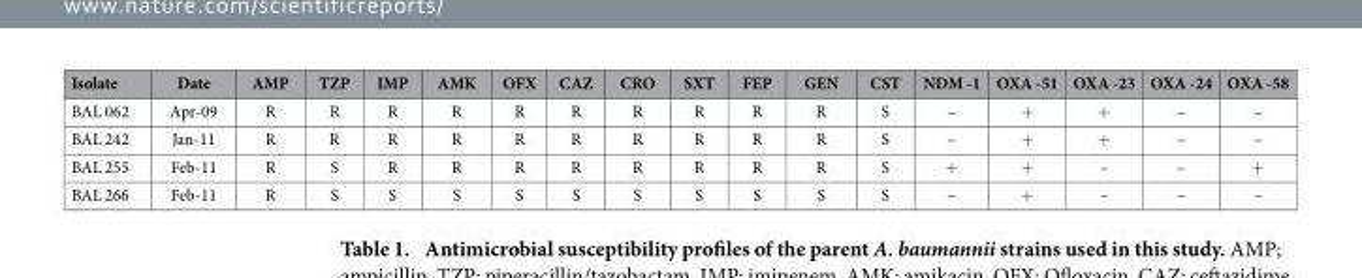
<table><thead><tr><td>Isolate</td><td>Date</td><td>AMP</td><td>TZP</td><td>IMP</td><td>AMK</td><td>OFX</td><td>CAZ</td><td>CRO</td><td>SXT</td><td>FEP</td><td>GEN</td><td>CST</td><td>NDM -1</td><td>OXA -51</td><td>OXA -23</td><td>OXA -24</td><td>OXA -58</td></tr></thead><tbody><tr><td>BAL 062</td><td>Apr-09</td><td>R</td><td>R</td><td>R</td><td>R</td><td>R</td><td>R</td><td>R</td><td>R</td><td>R</td><td>R</td><td>S</td><td>–</td><td>+</td><td>+</td><td>–</td><td>–</td></tr><tr><td>BAL 242</td><td>Jan-11</td><td>R</td><td>R</td><td>R</td><td>R</td><td>R</td><td>R</td><td>R</td><td>R</td><td>R</td><td>R</td><td>S</td><td>–</td><td>+</td><td>+</td><td>–</td><td>–</td></tr><tr><td>BAL 255</td><td>Feb-11</td><td>R</td><td>S</td><td>R</td><td>R</td><td>R</td><td>R</td><td>R</td><td>R</td><td>R</td><td>R</td><td>S</td><td>+</td><td>+</td><td>–</td><td>–</td><td>+</td></tr><tr><td>BAL 266</td><td>Feb-11</td><td>R</td><td>S</td><td>S</td><td>S</td><td>S</td><td>S</td><td>S</td><td>S</td><td>S</td><td>S</td><td>S</td><td>–</td><td>+</td><td>–</td><td>–</td><td>–</td></tr></tbody></table>